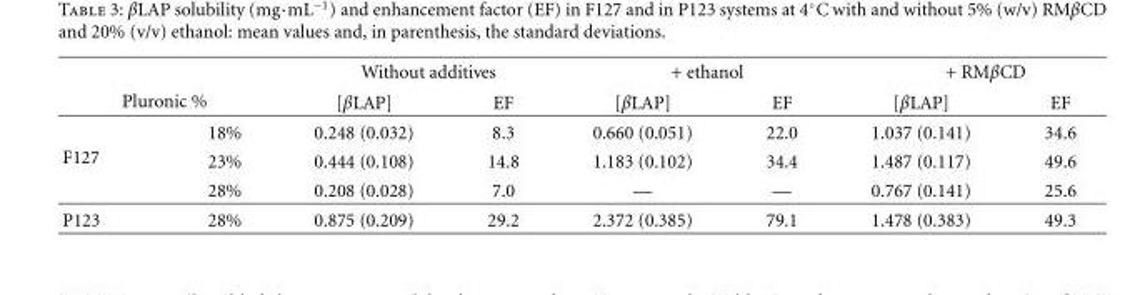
<table><thead><tr><td></td><td></td><td colspan="2">Without additives</td><td colspan="2">+ ethanol</td><td colspan="2">+ RMβCD</td></tr><tr><td colspan="2">Pluronic %</td><td>[βLAP]</td><td>EF</td><td>[βLAP]</td><td>EF</td><td>[βLAP]</td><td>EF</td></tr></thead><tbody><tr><td rowspan="3">F127</td><td>18%</td><td>0.248 (0.032)</td><td>8.3</td><td>0.660 (0.051)</td><td>22.0</td><td>1.037 (0.141)</td><td>34.6</td></tr><tr><td>23%</td><td>0.444 (0.108)</td><td>14.8</td><td>1.183 (0.102)</td><td>34.4</td><td>1.487 (0.117)</td><td>49.6</td></tr><tr><td>28%</td><td>0.208 (0.028)</td><td>7.0</td><td>—</td><td>—</td><td>0.767 (0.141)</td><td>25.6</td></tr><tr><td>P123</td><td>28%</td><td>0.875 (0.209)</td><td>29.2</td><td>2.372 (0.385)</td><td>79.1</td><td>1.478 (0.383)</td><td>49.3</td></tr></tbody></table>